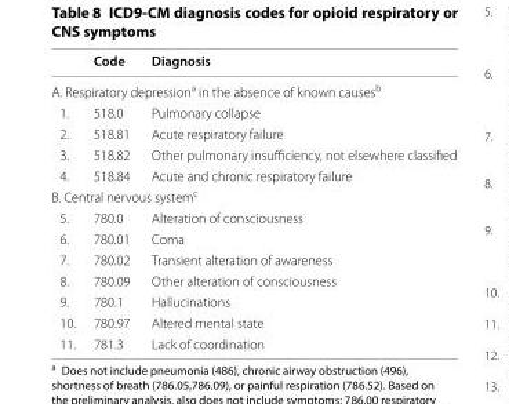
<table><thead><tr><td></td><td>Code</td><td>Diagnosis</td></tr></thead><tbody><tr><td colspan="3">A. Respiratory depression<sup>a</sup> in the absence of known causes<sup>b</sup></td></tr><tr><td>1.</td><td>518.0</td><td>Pulmonary collapse</td></tr><tr><td>2.</td><td>518.81</td><td>Acute respiratory failure</td></tr><tr><td>3.</td><td>518.82</td><td>Other pulmonary insufficiency, not elsewhere classified</td></tr><tr><td>4.</td><td>518.84</td><td>Acute and chronic respiratory failure</td></tr><tr><td colspan="3">B. Central nervous system<sup>c</sup></td></tr><tr><td>5.</td><td>780.0</td><td>Alteration of consciousness</td></tr><tr><td>6.</td><td>780.01</td><td>Coma</td></tr><tr><td>7.</td><td>780.02</td><td>Transient alteration of awareness</td></tr><tr><td>8.</td><td>780.09</td><td>Other alteration of consciousness</td></tr><tr><td>9.</td><td>780.1</td><td>Hallucinations</td></tr><tr><td>10.</td><td>780.97</td><td>Altered mental state</td></tr><tr><td>11.</td><td>781.3</td><td>Lack of coordination</td></tr></tbody></table>